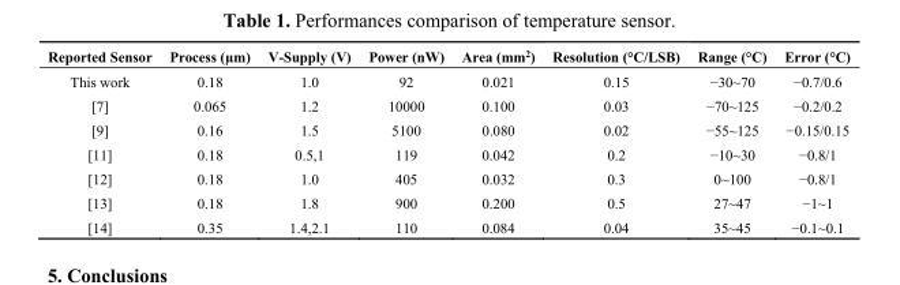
<table><thead><tr><td>Reported Sensor</td><td>Process (µm)</td><td>V-Supply (V)</td><td>Power (nW)</td><td>Area (mm<sup>2</sup>)</td><td>Resolution (°C/LSB)</td><td>Range (°C)</td><td>Error (°C)</td></tr></thead><tbody><tr><td>This work</td><td>0.18</td><td>1.0</td><td>92</td><td>0.021</td><td>0.15</td><td>−30~70</td><td>−0.7/0.6</td></tr><tr><td>[7]</td><td>0.065</td><td>1.2</td><td>10000</td><td>0.100</td><td>0.03</td><td>−70~125</td><td>−0.2/0.2</td></tr><tr><td>[9]</td><td>0.16</td><td>1.5</td><td>5100</td><td>0.080</td><td>0.02</td><td>−55~125</td><td>−0.15/0.15</td></tr><tr><td>[11]</td><td>0.18</td><td>0.5,1</td><td>119</td><td>0.042</td><td>0.2</td><td>−10~30</td><td>−0.8/1</td></tr><tr><td>[12]</td><td>0.18</td><td>1.0</td><td>405</td><td>0.032</td><td>0.3</td><td>0~100</td><td>−0.8/1</td></tr><tr><td>[13]</td><td>0.18</td><td>1.8</td><td>900</td><td>0.200</td><td>0.5</td><td>27~47</td><td>−1~1</td></tr><tr><td>[14]</td><td>0.35</td><td>1.4,2.1</td><td>110</td><td>0.084</td><td>0.04</td><td>35~45</td><td>−0.1~0.1</td></tr></tbody></table>